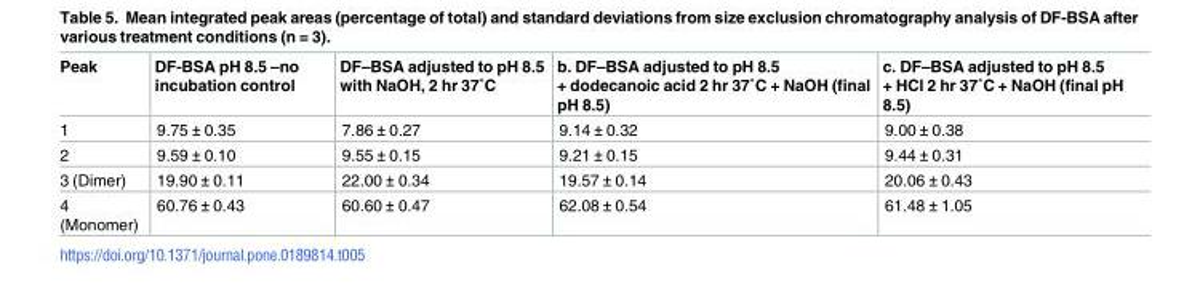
<table><thead><tr><td>Peak</td><td>DF-BSA pH 8.5 –no incubation control</td><td>DF–BSA adjusted to pH 8.5 with NaOH, 2 hr 37˚C</td><td>b. DF–BSA adjusted to pH 8.5 + dodecanoic acid 2 hr 37˚C + NaOH (final pH 8.5)</td><td>c. DF–BSA adjusted to pH 8.5 + HCl 2 hr 37˚C + NaOH (final pH 8.5)</td></tr></thead><tbody><tr><td>1</td><td>9.75 ± 0.35</td><td>7.86 ± 0.27</td><td>9.14 ± 0.32</td><td>9.00 ± 0.38</td></tr><tr><td>2</td><td>9.59 ± 0.10</td><td>9.55 ± 0.15</td><td>9.21 ± 0.15</td><td>9.44 ± 0.31</td></tr><tr><td>3 (Dimer)</td><td>19.90 ± 0.11</td><td>22.00 ± 0.34</td><td>19.57 ± 0.14</td><td>20.06 ± 0.43</td></tr><tr><td>4 (Monomer)</td><td>60.76 ± 0.43</td><td>60.60 ± 0.47</td><td>62.08 ± 0.54</td><td>61.48 ± 1.05</td></tr></tbody></table>